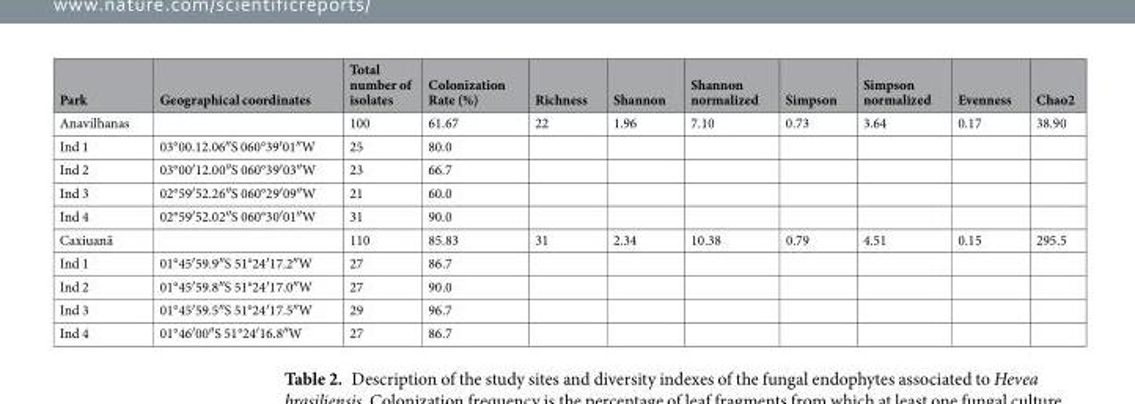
<table><thead><tr><td>Park</td><td>Geographical coordinates</td><td>Total number of isolates</td><td>Colonization Rate (%)</td><td>Richness</td><td>Shannon</td><td>Shannon normalized</td><td>Simpson</td><td>Simpson normalized</td><td>Evenness</td><td>Chao2</td></tr></thead><tbody><tr><td>Anavilhanas</td><td></td><td>100</td><td>61.67</td><td>22</td><td>1.96</td><td>7.10</td><td>0.73</td><td>3.64</td><td>0.17</td><td>38.90</td></tr><tr><td>Ind 1</td><td>03°00.12.06″S 060°39′01″W</td><td>25</td><td>80.0</td><td></td><td></td><td></td><td></td><td></td><td></td><td></td></tr><tr><td>Ind 2</td><td>03°00′12.00″S 060°39′03″W</td><td>23</td><td>66.7</td><td></td><td></td><td></td><td></td><td></td><td></td><td></td></tr><tr><td>Ind 3</td><td>02°59′52.26″S 060°29′09″W</td><td>21</td><td>60.0</td><td></td><td></td><td></td><td></td><td></td><td></td><td></td></tr><tr><td>Ind 4</td><td>02°59′52.02″S 060°30′01″W</td><td>31</td><td>90.0</td><td></td><td></td><td></td><td></td><td></td><td></td><td></td></tr><tr><td>Caxiuanã</td><td></td><td>110</td><td>85.83</td><td>31</td><td>2.34</td><td>10.38</td><td>0.79</td><td>4.51</td><td>0.15</td><td>295.5</td></tr><tr><td>Ind 1</td><td>01°45′59.9″S 51°24′17.2″W</td><td>27</td><td>86.7</td><td></td><td></td><td></td><td></td><td></td><td></td><td></td></tr><tr><td>Ind 2</td><td>01°45′59.8″S 51°24′17.0″W</td><td>27</td><td>90.0</td><td></td><td></td><td></td><td></td><td></td><td></td><td></td></tr><tr><td>Ind 3</td><td>01°45′59.5″S 51°24′17.5″W</td><td>29</td><td>96.7</td><td></td><td></td><td></td><td></td><td></td><td></td><td></td></tr><tr><td>Ind 4</td><td>01°46′00″S 51°24′16.8″W</td><td>27</td><td>86.7</td><td></td><td></td><td></td><td></td><td></td><td></td><td></td></tr></tbody></table>